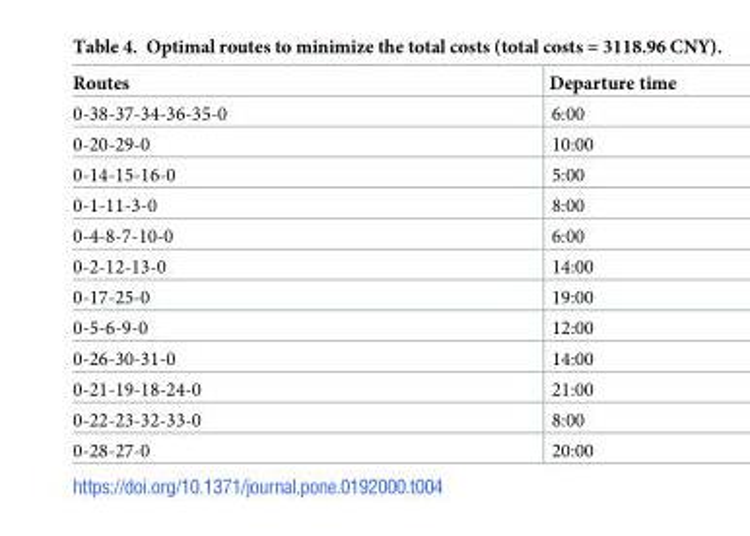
<table><thead><tr><td>Routes</td><td>Departure time</td></tr></thead><tbody><tr><td>0-38-37-34-36-35-0</td><td>6:00</td></tr><tr><td>0-20-29-0</td><td>10:00</td></tr><tr><td>0-14-15-16-0</td><td>5:00</td></tr><tr><td>0-1-11-3-0</td><td>8:00</td></tr><tr><td>0-4-8-7-10-0</td><td>6:00</td></tr><tr><td>0-2-12-13-0</td><td>14:00</td></tr><tr><td>0-17-25-0</td><td>19:00</td></tr><tr><td>0-5-6-9-0</td><td>12:00</td></tr><tr><td>0-26-30-31-0</td><td>14:00</td></tr><tr><td>0-21-19-18-24-0</td><td>21:00</td></tr><tr><td>0-22-23-32-33-0</td><td>8:00</td></tr><tr><td>0-28-27-0</td><td>20:00</td></tr></tbody></table>